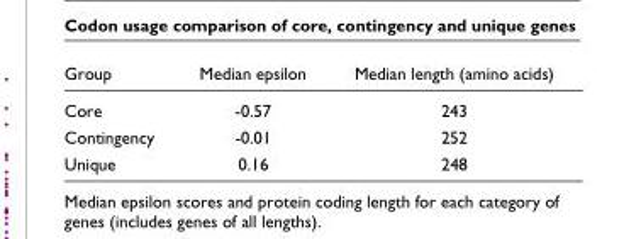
<table><thead><tr><td>Group</td><td>Median epsilon</td><td>Median length (amino acids)</td></tr></thead><tbody><tr><td>Core</td><td>-0.57</td><td>243</td></tr><tr><td>Contingency</td><td>-0.01</td><td>252</td></tr><tr><td>Unique</td><td>0.16</td><td>248</td></tr></tbody></table>